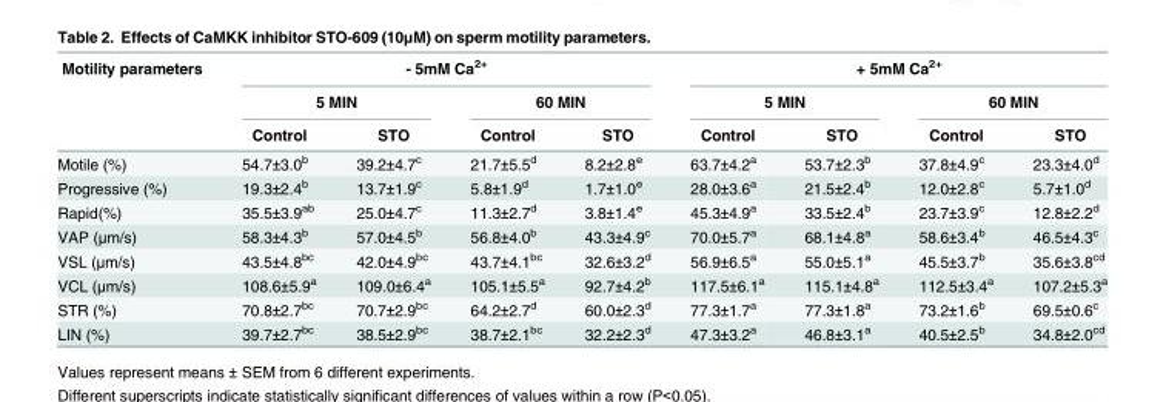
<table><thead><tr><td rowspan="3">Motility parameters</td><td colspan="4">- 5mM Ca<sup>2+</sup></td><td colspan="4">+ 5mM Ca<sup>2+</sup></td></tr><tr><td colspan="2">5 MIN</td><td colspan="2">60 MIN</td><td colspan="2">5 MIN</td><td colspan="2">60 MIN</td></tr><tr><td>Control</td><td>STO</td><td>Control</td><td>STO</td><td>Control</td><td>STO</td><td>Control</td><td>STO</td></tr></thead><tbody><tr><td>Motile (%)</td><td>54.7±3.0<sup>b</sup></td><td>39.2±4.7<sup>c</sup></td><td>21.7±5.5<sup>d</sup></td><td>8.2±2.8<sup>e</sup></td><td>63.7±4.2<sup>a</sup></td><td>53.7±2.3<sup>b</sup></td><td>37.8±4.9<sup>c</sup></td><td>23.3±4.0<sup>d</sup></td></tr><tr><td>Progressive (%)</td><td>19.3±2.4<sup>b</sup></td><td>13.7±1.9<sup>c</sup></td><td>5.8±1.9<sup>d</sup></td><td>1.7±1.0<sup>e</sup></td><td>28.0±3.6<sup>a</sup></td><td>21.5±2.4<sup>b</sup></td><td>12.0±2.8<sup>c</sup></td><td>5.7±1.0<sup>d</sup></td></tr><tr><td>Rapid(%)</td><td>35.5±3.9<sup>ab</sup></td><td>25.0±4.7<sup>c</sup></td><td>11.3±2.7<sup>d</sup></td><td>3.8±1.4<sup>e</sup></td><td>45.3±4.9<sup>a</sup></td><td>33.5±2.4<sup>b</sup></td><td>23.7±3.9<sup>c</sup></td><td>12.8±2.2<sup>d</sup></td></tr><tr><td>VAP (μm/s)</td><td>58.3±4.3<sup>b</sup></td><td>57.0±4.5<sup>b</sup></td><td>56.8±4.0<sup>b</sup></td><td>43.3±4.9<sup>c</sup></td><td>70.0±5.7<sup>a</sup></td><td>68.1±4.8<sup>a</sup></td><td>58.6±3.4<sup>b</sup></td><td>46.5±4.3<sup>c</sup></td></tr><tr><td>VSL (μm/s)</td><td>43.5±4.8<sup>bc</sup></td><td>42.0±4.9<sup>bc</sup></td><td>43.7±4.1<sup>bc</sup></td><td>32.6±3.2<sup>d</sup></td><td>56.9±6.5<sup>a</sup></td><td>55.0±5.1<sup>a</sup></td><td>45.5±3.7<sup>b</sup></td><td>35.6±3.8<sup>cd</sup></td></tr><tr><td>VCL (μm/s)</td><td>108.6±5.9<sup>a</sup></td><td>109.0±6.4<sup>a</sup></td><td>105.1±5.5<sup>a</sup></td><td>92.7±4.2<sup>b</sup></td><td>117.5±6.1<sup>a</sup></td><td>115.1±4.8<sup>a</sup></td><td>112.5±3.4<sup>a</sup></td><td>107.2±5.3<sup>a</sup></td></tr><tr><td>STR (%)</td><td>70.8±2.7<sup>bc</sup></td><td>70.7±2.9<sup>bc</sup></td><td>64.2±2.7<sup>d</sup></td><td>60.0±2.3<sup>d</sup></td><td>77.3±1.7<sup>a</sup></td><td>77.3±1.8<sup>a</sup></td><td>73.2±1.6<sup>b</sup></td><td>69.5±0.6<sup>c</sup></td></tr><tr><td>LIN (%)</td><td>39.7±2.7<sup>bc</sup></td><td>38.5±2.9<sup>bc</sup></td><td>38.7±2.1<sup>bc</sup></td><td>32.2±2.3<sup>d</sup></td><td>47.3±3.2<sup>a</sup></td><td>46.8±3.1<sup>a</sup></td><td>40.5±2.5<sup>b</sup></td><td>34.8±2.0<sup>cd</sup></td></tr></tbody></table>